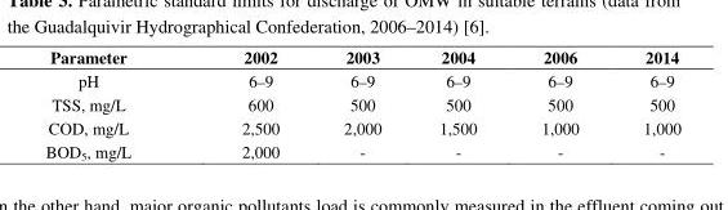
<table><thead><tr><td>Parameter</td><td>2002</td><td>2003</td><td>2004</td><td>2006</td><td>2014</td></tr></thead><tbody><tr><td>pH</td><td>6–9</td><td>6–9</td><td>6–9</td><td>6–9</td><td>6–9</td></tr><tr><td>TSS, mg/L</td><td>600</td><td>500</td><td>500</td><td>500</td><td>500</td></tr><tr><td>COD, mg/L</td><td>2,500</td><td>2,000</td><td>1,500</td><td>1,000</td><td>1,000</td></tr><tr><td>BOD<sub>5</sub>, mg/L</td><td>2,000</td><td>-</td><td>-</td><td>-</td><td>-</td></tr></tbody></table>